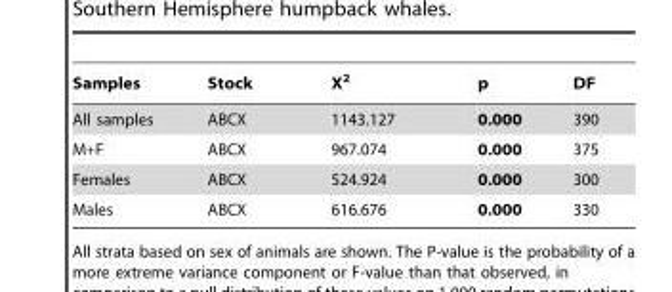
<table><thead><tr><td>Samples</td><td>Stock</td><td>X<sup>2</sup></td><td>p</td><td>DF</td></tr></thead><tbody><tr><td>All samples</td><td>ABCX</td><td>1143.127</td><td>0.000</td><td>390</td></tr><tr><td>M+F</td><td>ABCX</td><td>967.074</td><td>0.000</td><td>375</td></tr><tr><td>Females</td><td>ABCX</td><td>524.924</td><td>0.000</td><td>300</td></tr><tr><td>Males</td><td>ABCX</td><td>616.676</td><td>0.000</td><td>330</td></tr></tbody></table>